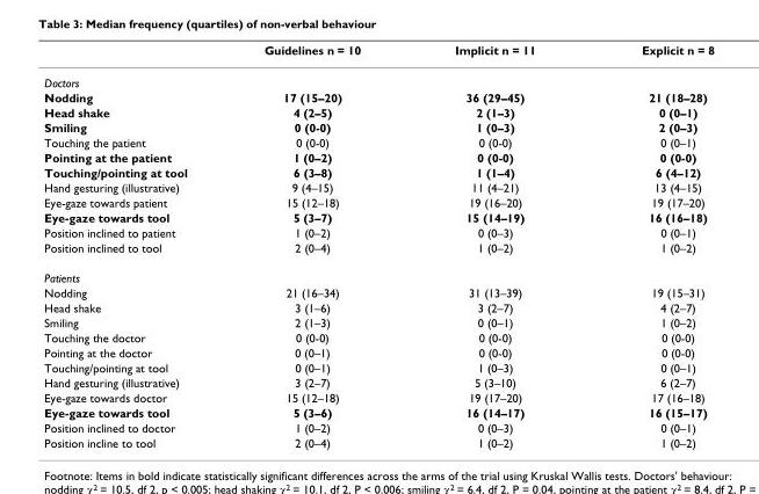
<table><thead><tr><td></td><td>Guidelines n = 10</td><td>Implicit n = 11</td><td>Explicit n = 8</td></tr></thead><tbody><tr><td colspan="4">Doctors</td></tr><tr><td>Nodding</td><td>17 (15–20)</td><td>36 (29–45)</td><td>21 (18–28)</td></tr><tr><td>Head shake</td><td>4 (2–5)</td><td>2 (1–3)</td><td>0 (0–1)</td></tr><tr><td>Smiling</td><td>0 (0-0)</td><td>1 (0–3)</td><td>2 (0–3)</td></tr><tr><td>Touching the patient</td><td>0 (0-0)</td><td>0 (0-0)</td><td>0 (0–1)</td></tr><tr><td>Pointing at the patient</td><td>1 (0–2)</td><td>0 (0-0)</td><td>0 (0-0)</td></tr><tr><td>Touching/pointing at tool</td><td>6 (3–8)</td><td>1 (1–4)</td><td>6 (4–12)</td></tr><tr><td>Hand gesturing (illustrative)</td><td>9 (4–15)</td><td>11 (4–21)</td><td>13 (4–15)</td></tr><tr><td>Eye-gaze towards patient</td><td>15 (12–18)</td><td>19 (16–20)</td><td>19 (17–20)</td></tr><tr><td>Eye-gaze towards tool</td><td>5 (3–7)</td><td>15 (14–19)</td><td>16 (16–18)</td></tr><tr><td>Position inclined to patient</td><td>1 (0–2)</td><td>0 (0–3)</td><td>0 (0–1)</td></tr><tr><td>Position inclined to tool</td><td>2 (0–4)</td><td>1 (0–2)</td><td>1 (0–2)</td></tr><tr><td colspan="4">Patients</td></tr><tr><td>Nodding</td><td>21 (16–34)</td><td>31 (13–39)</td><td>19 (15–31)</td></tr><tr><td>Head shake</td><td>3 (1–6)</td><td>3 (2–7)</td><td>4 (2–7)</td></tr><tr><td>Smiling</td><td>2 (1–3)</td><td>0 (0–1)</td><td>1 (0–2)</td></tr><tr><td>Touching the doctor</td><td>0 (0-0)</td><td>0 (0-0)</td><td>0 (0-0)</td></tr><tr><td>Pointing at the doctor</td><td>0 (0–1)</td><td>0 (0-0)</td><td>0 (0-0)</td></tr><tr><td>Touching/pointing at tool</td><td>0 (0–1)</td><td>1 (0–3)</td><td>0 (0–1)</td></tr><tr><td>Hand gesturing (illustrative)</td><td>3 (2–7)</td><td>5 (3–10)</td><td>6 (2–7)</td></tr><tr><td>Eye-gaze towards doctor</td><td>15 (12–18)</td><td>19 (17–20)</td><td>17 (16–18)</td></tr><tr><td>Eye-gaze towards tool</td><td>5 (3–6)</td><td>16 (14–17)</td><td>16 (15–17)</td></tr><tr><td>Position inclined to doctor</td><td>1 (0–2)</td><td>0 (0–3)</td><td>0 (0–1)</td></tr><tr><td>Position incline to tool</td><td>2 (0–4)</td><td>1 (0–2)</td><td>1 (0–2)</td></tr></tbody></table>